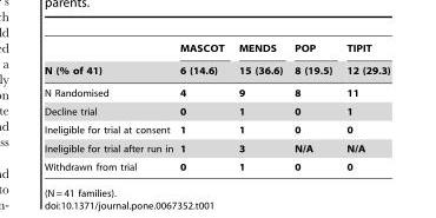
<table><thead><tr><td rowspan="2">N (% of 41)</td><td rowspan="2">MASCOT 6 (14.6)</td><td rowspan="2">MENDS 15 (36.6)</td><td rowspan="2">POP 8 (19.5)</td><td rowspan="2">TIPIT 12 (29.3)</td></tr><tr></tr></thead><tbody><tr><td>N Randomised</td><td>4</td><td>9</td><td>8</td><td>11</td></tr><tr><td>Decline trial</td><td>0</td><td>1</td><td>0</td><td>1</td></tr><tr><td>Ineligible for trial at consent</td><td>1</td><td>1</td><td>0</td><td>0</td></tr><tr><td>Ineligible for trial after run in</td><td>1</td><td>3</td><td>N/A</td><td>N/A</td></tr><tr><td>Withdrawn from trial</td><td>0</td><td>1</td><td>0</td><td>0</td></tr></tbody></table>